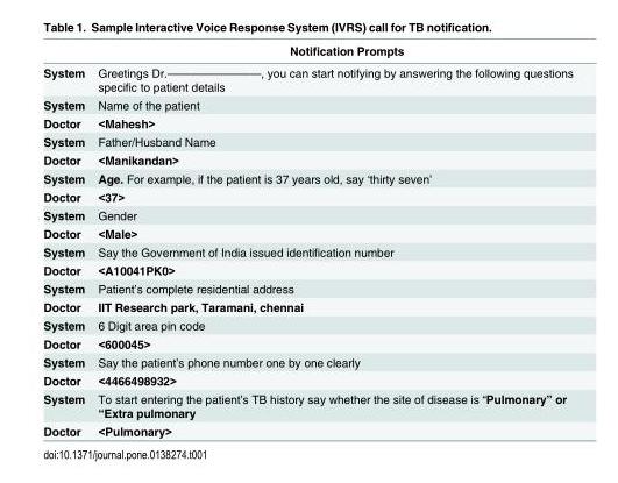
<table><thead><tr><td></td><td>Notification Prompts</td></tr></thead><tbody><tr><td>System</td><td>Greetings Dr.————————, you can start notifying by answering the following questions specific to patient details</td></tr><tr><td>System</td><td>Name of the patient</td></tr><tr><td>Doctor</td><td>&lt;Mahesh&gt;</td></tr><tr><td>System</td><td>Father/Husband Name</td></tr><tr><td>Doctor</td><td>&lt;Manikandan&gt;</td></tr><tr><td>System</td><td>Age. For example, if the patient is 37 years old, say ‘thirty seven’</td></tr><tr><td>Doctor</td><td>&lt;37&gt;</td></tr><tr><td>System</td><td>Gender</td></tr><tr><td>Doctor</td><td>&lt;Male&gt;</td></tr><tr><td>System</td><td>Say the Government of India issued identification number</td></tr><tr><td>Doctor</td><td>&lt;A10041PK0&gt;</td></tr><tr><td>System</td><td>Patient’s complete residential address</td></tr><tr><td>Doctor</td><td>IIT Research park, Taramani, chennai</td></tr><tr><td>System</td><td>6 Digit area pin code</td></tr><tr><td>Doctor</td><td>&lt;600045&gt;</td></tr><tr><td>System</td><td>Say the patient’s phone number one by one clearly</td></tr><tr><td>Doctor</td><td>&lt;4466498932&gt;</td></tr><tr><td>System</td><td>To start entering the patient’s TB history say whether the site of disease is “Pulmonary” or “Extra pulmonary</td></tr><tr><td>Doctor</td><td>&lt;Pulmonary&gt;</td></tr></tbody></table>